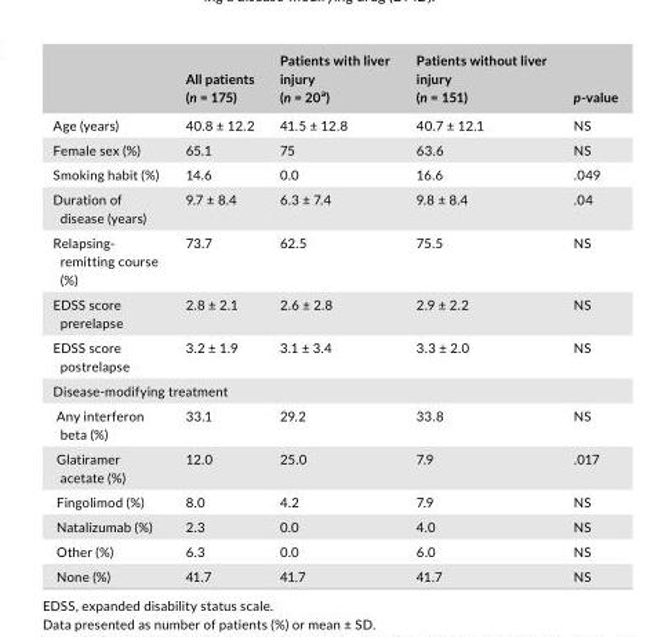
<table><thead><tr><td></td><td>All patients (n = 175)</td><td>Patients with liver injury (n = 20<sup>a</sup>)</td><td>Patients without liver injury (n = 151)</td><td>p- value</td></tr></thead><tbody><tr><td>Age (years)</td><td>40.8 ± 12.2</td><td>41.5 ± 12.8</td><td>40.7 ± 12.1</td><td>NS</td></tr><tr><td>Female sex (%)</td><td>65.1</td><td>75</td><td>63.6</td><td>NS</td></tr><tr><td>Smoking habit (%)</td><td>14.6</td><td>0.0</td><td>16.6</td><td>.049</td></tr><tr><td>Duration of disease (years)</td><td>9.7 ± 8.4</td><td>6.3 ± 7.4</td><td>9.8 ± 8.4</td><td>.04</td></tr><tr><td>Relapsing- remitting course (%)</td><td>73.7</td><td>62.5</td><td>75.5</td><td>NS</td></tr><tr><td>EDSS score prerelapse</td><td>2.8 ± 2.1</td><td>2.6 ± 2.8</td><td>2.9 ± 2.2</td><td>NS</td></tr><tr><td>EDSS score postrelapse</td><td>3.2 ± 1.9</td><td>3.1 ± 3.4</td><td>3.3 ± 2.0</td><td>NS</td></tr><tr><td colspan="5">Disease- modifying treatment</td></tr><tr><td>Any interferon beta (%)</td><td>33.1</td><td>29.2</td><td>33.8</td><td>NS</td></tr><tr><td>Glatiramer acetate (%)</td><td>12.0</td><td>25.0</td><td>7.9</td><td>.017</td></tr><tr><td>Fingolimod (%)</td><td>8.0</td><td>4.2</td><td>7.9</td><td>NS</td></tr><tr><td>Natalizumab (%)</td><td>2.3</td><td>0.0</td><td>4.0</td><td>NS</td></tr><tr><td>Other (%)</td><td>6.3</td><td>0.0</td><td>6.0</td><td>NS</td></tr><tr><td>None (%)</td><td>41.7</td><td>41.7</td><td>41.7</td><td>NS</td></tr></tbody></table>